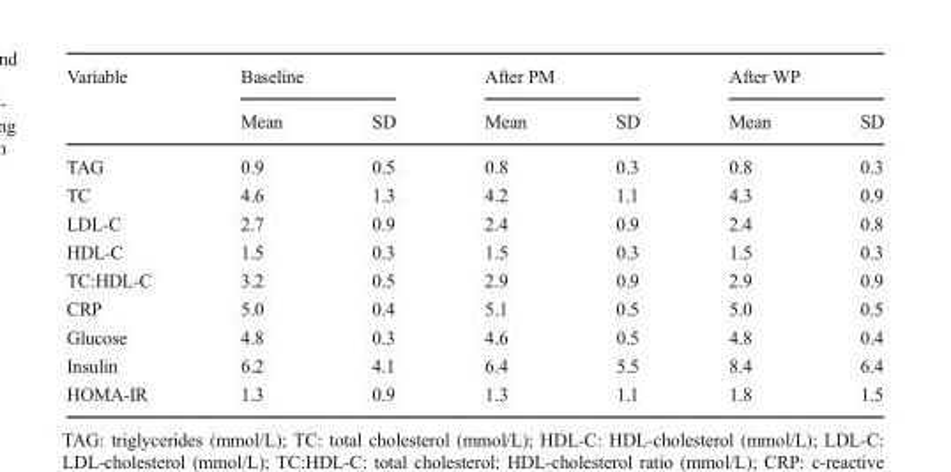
<table><thead><tr><td rowspan="2">Variable</td><td colspan="2">Baseline</td><td colspan="2">After PM</td><td colspan="2">After WP</td></tr><tr><td>Mean</td><td>SD</td><td>Mean</td><td>SD</td><td>Mean</td><td>SD</td></tr></thead><tbody><tr><td>TAG</td><td>0.9</td><td>0.5</td><td>0.8</td><td>0.3</td><td>0.8</td><td>0.3</td></tr><tr><td>TC</td><td>4.6</td><td>1.3</td><td>4.2</td><td>1.1</td><td>4.3</td><td>0.9</td></tr><tr><td>LDL-C</td><td>2.7</td><td>0.9</td><td>2.4</td><td>0.9</td><td>2.4</td><td>0.8</td></tr><tr><td>HDL-C</td><td>1.5</td><td>0.3</td><td>1.5</td><td>0.3</td><td>1.5</td><td>0.3</td></tr><tr><td>TC:HDL-C</td><td>3.2</td><td>0.5</td><td>2.9</td><td>0.9</td><td>2.9</td><td>0.9</td></tr><tr><td>CRP</td><td>5.0</td><td>0.4</td><td>5.1</td><td>0.5</td><td>5.0</td><td>0.5</td></tr><tr><td>Glucose</td><td>4.8</td><td>0.3</td><td>4.6</td><td>0.5</td><td>4.8</td><td>0.4</td></tr><tr><td>Insulin</td><td>6.2</td><td>4.1</td><td>6.4</td><td>5.5</td><td>8.4</td><td>6.4</td></tr><tr><td>HOMA-IR</td><td>1.3</td><td>0.9</td><td>1.3</td><td>1.1</td><td>1.8</td><td>1.5</td></tr></tbody></table>